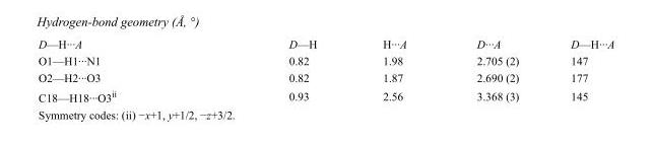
<table><tbody><tr><td>D—H···A</td><td>D—H</td><td>H···A</td><td>D···A</td><td>D—H···A</td></tr><tr><td>O1—H1···N1</td><td>0.82</td><td>1.98</td><td>2.705 (2)</td><td>147</td></tr><tr><td>O2—H2···O3</td><td>0.82</td><td>1.87</td><td>2.690 (2)</td><td>177</td></tr><tr><td>C18—H18···O3<sup>ii</sup></td><td>0.93</td><td>2.56</td><td>3.368 (3)</td><td>145</td></tr></tbody></table>